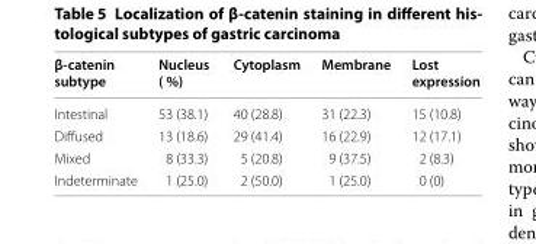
<table><thead><tr><td>β‑catenin subtype</td><td>Nucleus ( %)</td><td>Cytoplasm</td><td>Membrane</td><td>Lost expression</td></tr></thead><tbody><tr><td>Intestinal</td><td>53 (38.1)</td><td>40 (28.8)</td><td>31 (22.3)</td><td>15 (10.8)</td></tr><tr><td>Diffused</td><td>13 (18.6)</td><td>29 (41.4)</td><td>16 (22.9)</td><td>12 (17.1)</td></tr><tr><td>Mixed</td><td>8 (33.3)</td><td>5 (20.8)</td><td>9 (37.5)</td><td>2 (8.3)</td></tr><tr><td>Indeterminate</td><td>1 (25.0)</td><td>2 (50.0)</td><td>1 (25.0)</td><td>0 (0)</td></tr></tbody></table>